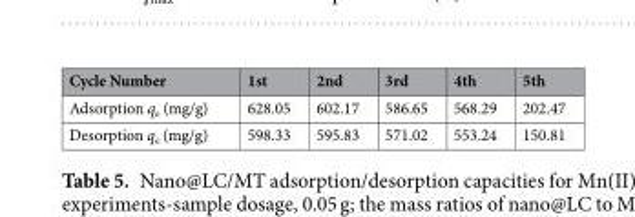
<table><thead><tr><td>Cycle Number</td><td>1st</td><td>2nd</td><td>3rd</td><td>4th</td><td>5th</td></tr></thead><tbody><tr><td>Adsorption q<sub>e</sub> (mg/g)</td><td>628.05</td><td>602.17</td><td>586.65</td><td>568.29</td><td>202.47</td></tr><tr><td>Desorption q<sub>e</sub> (mg/g)</td><td>598.33</td><td>595.83</td><td>571.02</td><td>553.24</td><td>150.81</td></tr></tbody></table>